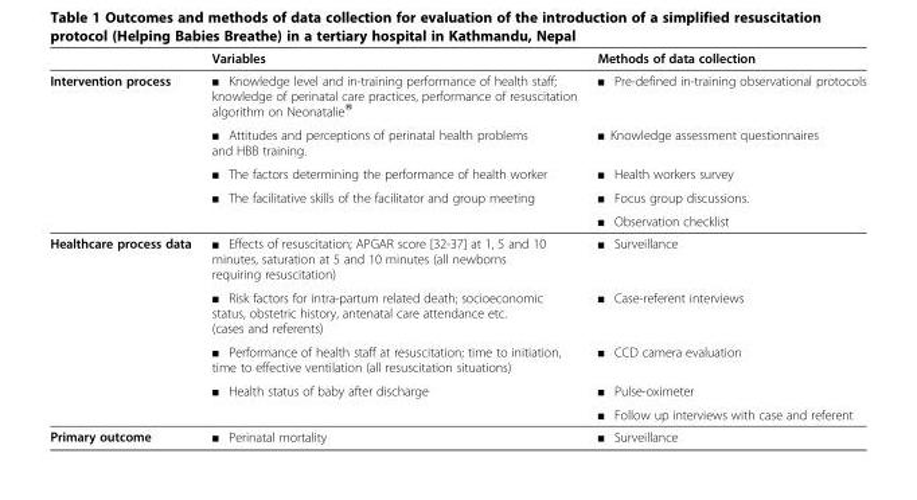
<table><thead><tr><td></td><td>Variables</td><td>Methods of data collection</td></tr></thead><tbody><tr><td rowspan="5">Intervention process</td><td>▪ Knowledge level and in-training performance of health staff; knowledge of perinatal care practices, performance of resuscitation algorithm on Neonatalie®</td><td>▪ Pre-defined in-training observational protocols</td></tr><tr><td>▪ Attitudes and perceptions of perinatal health problems and HBB training.</td><td>▪ Knowledge assessment questionnaires</td></tr><tr><td>▪ The factors determining the performance of health worker</td><td>▪ Health workers survey</td></tr><tr><td>▪ The facilitative skills of the facilitator and group meeting</td><td>▪ Focus group discussions.</td></tr><tr><td></td><td>▪ Observation checklist</td></tr><tr><td rowspan="5">Healthcare process data</td><td>▪ Effects of resuscitation; APGAR score [32-37] at 1, 5 and 10 minutes, saturation at 5 and 10 minutes (all newborns requiring resuscitation)</td><td>▪ Surveillance</td></tr><tr><td>▪ Risk factors for intra-partum related death; socioeconomic status, obstetric history, antenatal care attendance etc. (cases and referents)</td><td>▪ Case-referent interviews</td></tr><tr><td>▪ Performance of health staff at resuscitation; time to initiation, time to effective ventilation (all resuscitation situations)</td><td>▪ CCD camera evaluation</td></tr><tr><td>▪ Health status of baby after discharge</td><td>▪ Pulse-oximeter</td></tr><tr><td></td><td>▪ Follow up interviews with case and referent</td></tr><tr><td>Primary outcome</td><td>▪ Perinatal mortality</td><td>▪ Surveillance</td></tr></tbody></table>